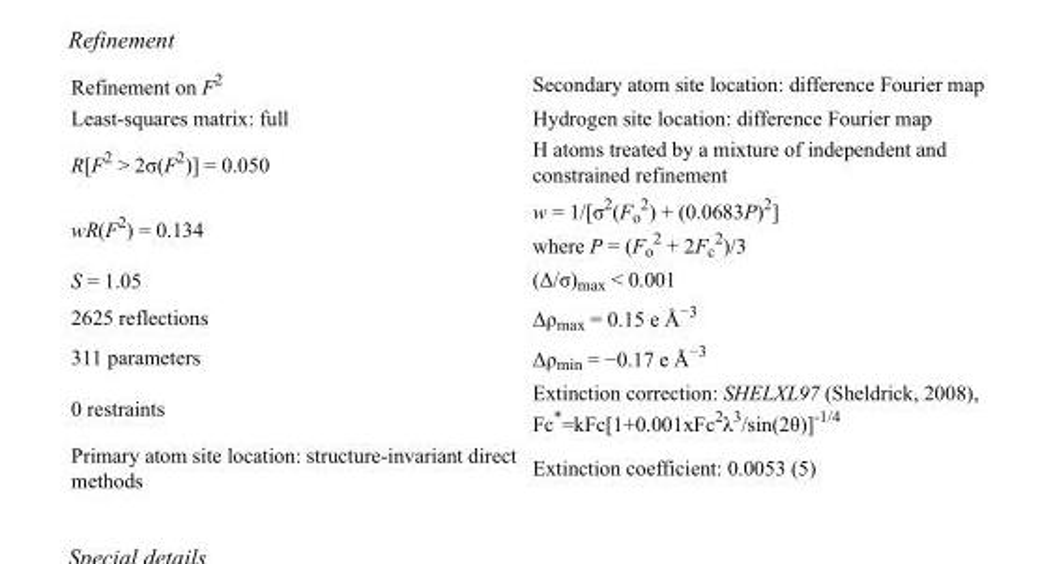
<table><tbody><tr><td>Refinement on F<sup>2</sup></td><td>Secondary atom site location: difference Fourier map</td></tr><tr><td>Least-squares matrix: full</td><td>Hydrogen site location: difference Fourier map</td></tr><tr><td>R[F<sup>2</sup> &gt; 2σ(F<sup>2</sup>)] = 0.050</td><td>H atoms treated by a mixture of independent and constrained refinement</td></tr><tr><td>wR(F<sup>2</sup>) = 0.134</td><td>w = 1/[σ<sup>2</sup>(F<sub>o</sub> <sup>2</sup>) + (0.0683P)<sup>2</sup>] where P = (F<sub>o</sub> <sup>2</sup> + 2F<sub>c</sub> <sup>2</sup>)/3</td></tr><tr><td>S = 1.05</td><td>(Δ/σ)<sub>max</sub> &lt; 0.001</td></tr><tr><td>2625 reflections</td><td>Δρ<sub>max</sub> = 0.15 e Å<sup>−3</sup></td></tr><tr><td>311 parameters</td><td>Δρ<sub>min</sub> = −0.17 e Å<sup>−3</sup></td></tr><tr><td>0 restraints</td><td>Extinction correction: SHELXL97 (Sheldrick, 2008), Fc*=kFc[1+0.001xFc<sup>2</sup>λ<sup>3</sup>/sin(2θ)]<sup>-1/4</sup></td></tr><tr><td>Primary atom site location: structure-invariant direct methods</td><td>Extinction coefficient: 0.0053 (5)</td></tr></tbody></table>